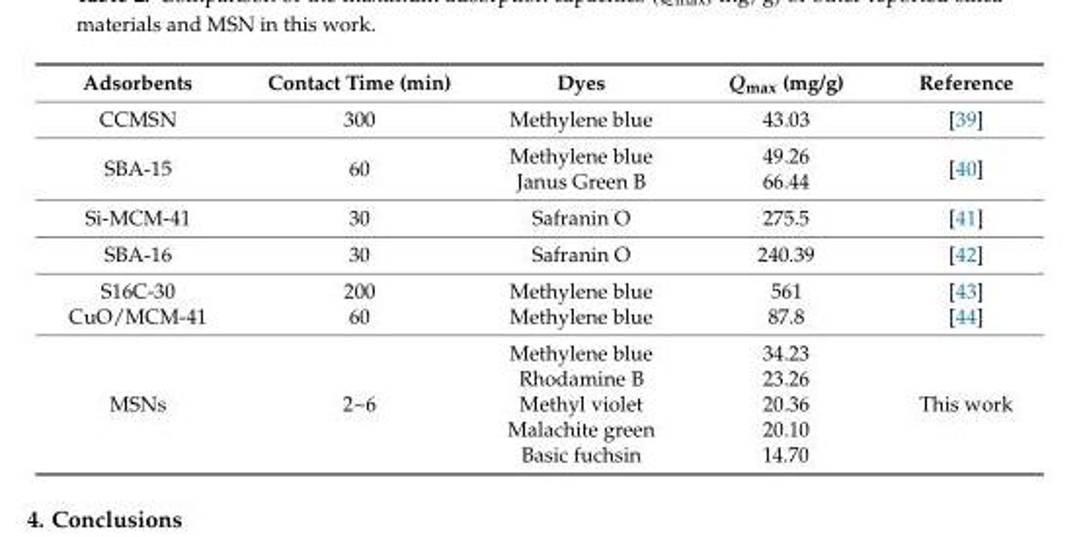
<table><thead><tr><td>Adsorbents</td><td>Contact Time (min)</td><td>Dyes</td><td>Qmax (mg/g)</td><td>Reference</td></tr></thead><tbody><tr><td>CCMSN</td><td>300</td><td>Methylene blue</td><td>43.03</td><td>[39]</td></tr><tr><td>SBA-15</td><td>60</td><td>Methylene blue Janus Green B</td><td>49.26 66.44</td><td>[40]</td></tr><tr><td>Si-MCM-41</td><td>30</td><td>Safranin O</td><td>275.5</td><td>[41]</td></tr><tr><td>SBA-16</td><td>30</td><td>Safranin O</td><td>240.39</td><td>[42]</td></tr><tr><td>S16C-30 CuO/MCM-41</td><td>200 60</td><td>Methylene blue Methylene blue</td><td>561 87.8</td><td>[43] [44]</td></tr><tr><td>MSNs</td><td>2~6</td><td>Methylene blue Rhodamine B Methyl violet Malachite green Basic fuchsin</td><td>34.23 23.26 20.36 20.10 14.70</td><td>This work</td></tr></tbody></table>